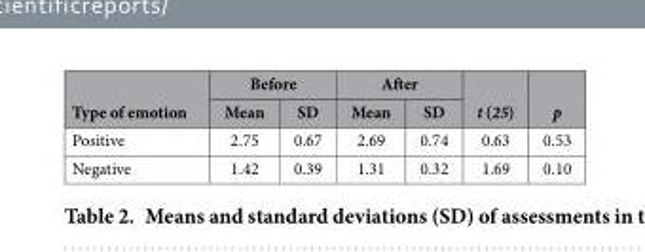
<table><thead><tr><td rowspan="2">Type of emotion</td><td colspan="2">Before</td><td colspan="2">After</td><td rowspan="2">t (25)</td><td rowspan="2">p</td></tr><tr><td>Mean</td><td>SD</td><td>Mean</td><td>SD</td></tr></thead><tbody><tr><td>Positive</td><td>2.75</td><td>0.67</td><td>2.69</td><td>0.74</td><td>0.63</td><td>0.53</td></tr><tr><td>Negative</td><td>1.42</td><td>0.39</td><td>1.31</td><td>0.32</td><td>1.69</td><td>0.10</td></tr></tbody></table>